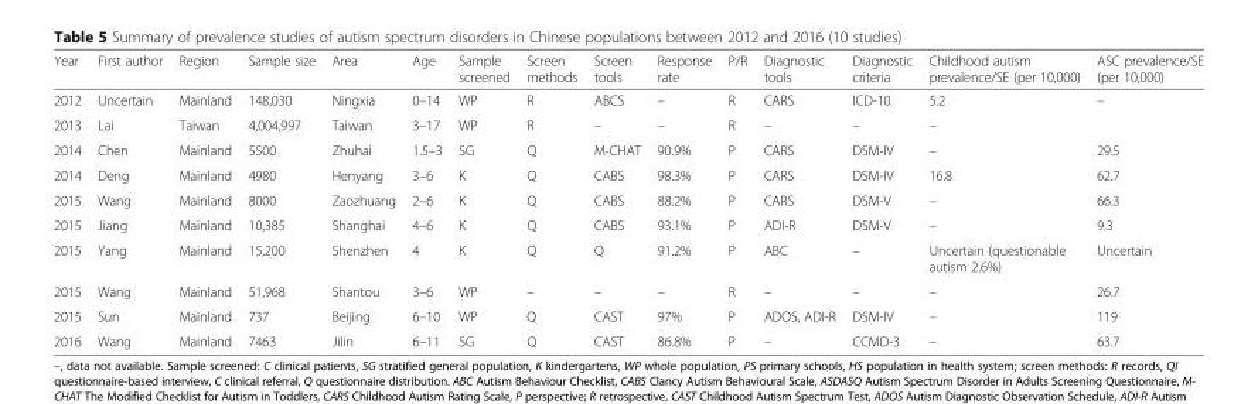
<table><thead><tr><td>Year</td><td>First author</td><td>Region</td><td>Sample size</td><td>Area</td><td>Age</td><td>Sample screened</td><td>Screen methods</td><td>Screen tools</td><td>Response rate</td><td>P/R</td><td>Diagnostic tools</td><td>Diagnostic criteria</td><td>Childhood autism prevalence/SE (per 10,000)</td><td>ASC prevalence/SE (per 10,000)</td></tr></thead><tbody><tr><td>2012</td><td>Uncertain</td><td>Mainland</td><td>148,030</td><td>Ningxia</td><td>0–14</td><td>WP</td><td>R</td><td>ABCS</td><td>–</td><td>R</td><td>CARS</td><td>ICD-10</td><td>5.2</td><td>–</td></tr><tr><td>2013</td><td>Lai</td><td>Taiwan</td><td>4,004,997</td><td>Taiwan</td><td>3–17</td><td>WP</td><td>R</td><td>–</td><td>–</td><td>R</td><td>–</td><td>–</td><td>–</td><td></td></tr><tr><td>2014</td><td>Chen</td><td>Mainland</td><td>5500</td><td>Zhuhai</td><td>1.5–3</td><td>SG</td><td>Q</td><td>M-CHAT</td><td>90.9%</td><td>P</td><td>CARS</td><td>DSM-IV</td><td>–</td><td>29.5</td></tr><tr><td>2014</td><td>Deng</td><td>Mainland</td><td>4980</td><td>Henyang</td><td>3–6</td><td>K</td><td>Q</td><td>CABS</td><td>98.3%</td><td>P</td><td>CARS</td><td>DSM-IV</td><td>16.8</td><td>62.7</td></tr><tr><td>2015</td><td>Wang</td><td>Mainland</td><td>8000</td><td>Zaozhuang</td><td>2–6</td><td>K</td><td>Q</td><td>CABS</td><td>88.2%</td><td>P</td><td>CARS</td><td>DSM-V</td><td>–</td><td>66.3</td></tr><tr><td>2015</td><td>Jiang</td><td>Mainland</td><td>10,385</td><td>Shanghai</td><td>4–6</td><td>K</td><td>Q</td><td>CABS</td><td>93.1%</td><td>P</td><td>ADI-R</td><td>DSM-V</td><td>–</td><td>9.3</td></tr><tr><td>2015</td><td>Yang</td><td>Mainland</td><td>15,200</td><td>Shenzhen</td><td>4</td><td>K</td><td>Q</td><td>Q</td><td>91.2%</td><td>P</td><td>ABC</td><td>–</td><td>Uncertain (questionable autism 2.6%)</td><td>Uncertain</td></tr><tr><td>2015</td><td>Wang</td><td>Mainland</td><td>51,968</td><td>Shantou</td><td>3–6</td><td>WP</td><td>–</td><td>–</td><td>–</td><td>R</td><td>–</td><td>–</td><td>–</td><td>26.7</td></tr><tr><td>2015</td><td>Sun</td><td>Mainland</td><td>737</td><td>Beijing</td><td>6–10</td><td>WP</td><td>Q</td><td>CAST</td><td>97%</td><td>P</td><td>ADOS, ADI-R</td><td>DSM-IV</td><td>–</td><td>119</td></tr><tr><td>2016</td><td>Wang</td><td>Mainland</td><td>7463</td><td>Jilin</td><td>6–11</td><td>SG</td><td>Q</td><td>CAST</td><td>86.8%</td><td>P</td><td>–</td><td>CCMD-3</td><td>–</td><td>63.7</td></tr></tbody></table>